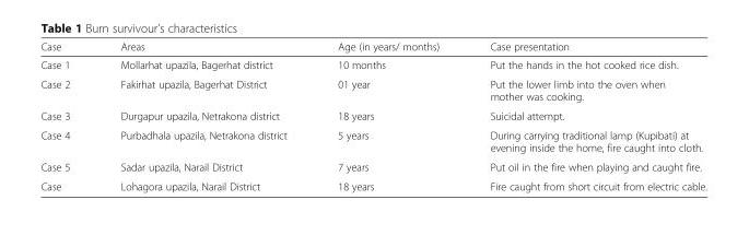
<table><thead><tr><td>Case</td><td>Areas</td><td>Age (in years/ months)</td><td>Case presentation</td></tr></thead><tbody><tr><td>Case 1</td><td>Mollarhat upazila, Bagerhat district</td><td>10 months</td><td>Put the hands in the hot cooked rice dish.</td></tr><tr><td>Case 2</td><td>Fakirhat upazila, Bagerhat District</td><td>01 year</td><td>Put the lower limb into the oven when mother was cooking.</td></tr><tr><td>Case 3</td><td>Durgapur upazila, Netrakona district</td><td>18 years</td><td>Suicidal attempt.</td></tr><tr><td>Case 4</td><td>Purbadhala upazila, Netrakona district</td><td>5 years</td><td>During carrying traditional lamp (Kupibati) at evening inside the home, fire caught into cloth.</td></tr><tr><td>Case 5</td><td>Sadar upazila, Narail District</td><td>7 years</td><td>Put oil in the fire when playing and caught fire.</td></tr><tr><td>Case</td><td>Lohagora upazila, Narail District</td><td>18 years</td><td>Fire caught from short circuit from electric cable.</td></tr></tbody></table>